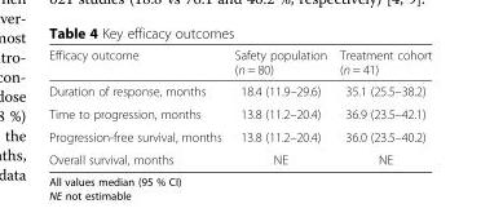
<table><thead><tr><td>Efficacy outcome</td><td>Safety population (n = 80)</td><td>Treatment cohort (n = 41)</td></tr></thead><tbody><tr><td>Duration of response, months</td><td>18.4 (11.9–29.6)</td><td>35.1 (25.5–38.2)</td></tr><tr><td>Time to progression, months</td><td>13.8 (11.2–20.4)</td><td>36.9 (23.5–42.1)</td></tr><tr><td>Progression-free survival, months</td><td>13.8 (11.2–20.4)</td><td>36.0 (23.5–40.2)</td></tr><tr><td>Overall survival, months</td><td>NE</td><td>NE</td></tr></tbody></table>